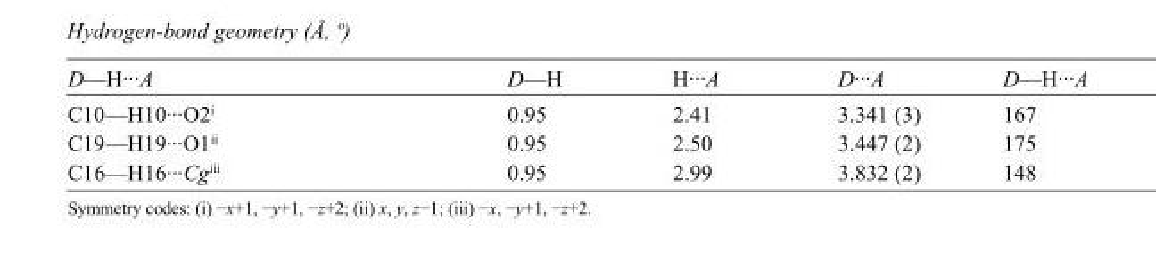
<table><tbody><tr><td>D—H···A</td><td>D—H</td><td>H···A</td><td>D···A</td><td>D—H···A</td></tr><tr><td>C10—H10···O2<sup>i</sup></td><td>0.95</td><td>2.41</td><td>3.341 (3)</td><td>167</td></tr><tr><td>C19—H19···O1<sup>ii</sup></td><td>0.95</td><td>2.50</td><td>3.447 (2)</td><td>175</td></tr><tr><td>C16—H16···Cg<sup>iii</sup></td><td>0.95</td><td>2.99</td><td>3.832 (2)</td><td>148</td></tr></tbody></table>